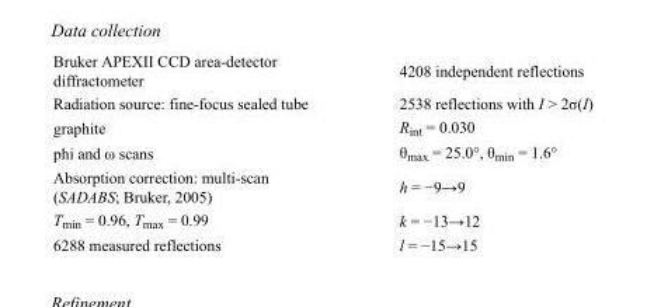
<table><tbody><tr><td>Bruker APEXII CCD area-detector diffractometer</td><td>4208 independent reflections</td></tr><tr><td>Radiation source: fine-focus sealed tube</td><td>2538 reflections with I &gt; 2σ(I)</td></tr><tr><td>graphite</td><td>R<sub>int</sub> = 0.030</td></tr><tr><td>phi and ω scans</td><td>θ<sub>max</sub> = 25.0°, θ<sub>min</sub> = 1.6°</td></tr><tr><td>Absorption correction: multi-scan (SADABS; Bruker, 2005)</td><td>h = −9→9</td></tr><tr><td>T<sub>min</sub> = 0.96, T<sub>max</sub> = 0.99</td><td>k = −13→12</td></tr><tr><td>6288 measured reflections</td><td>l = −15→15</td></tr></tbody></table>